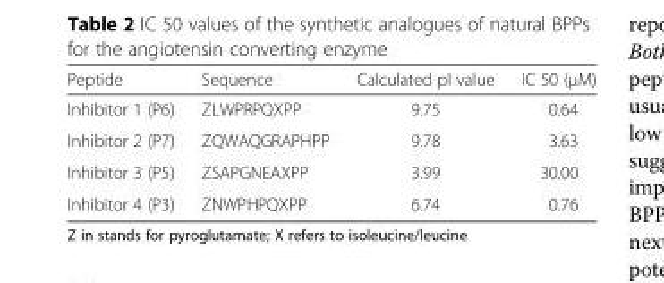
<table><thead><tr><td>Peptide</td><td>Sequence</td><td>Calculated pI value</td><td>IC 50 (μM)</td></tr></thead><tbody><tr><td>Inhibitor 1 (P6)</td><td>ZLWPRPQXPP</td><td>9.75</td><td>0.64</td></tr><tr><td>Inhibitor 2 (P7)</td><td>ZQWAQGRAPHPP</td><td>9.78</td><td>3.63</td></tr><tr><td>Inhibitor 3 (P5)</td><td>ZSAPGNEAXPP</td><td>3.99</td><td>30.00</td></tr><tr><td>Inhibitor 4 (P3)</td><td>ZNWPHPQXPP</td><td>6.74</td><td>0.76</td></tr></tbody></table>